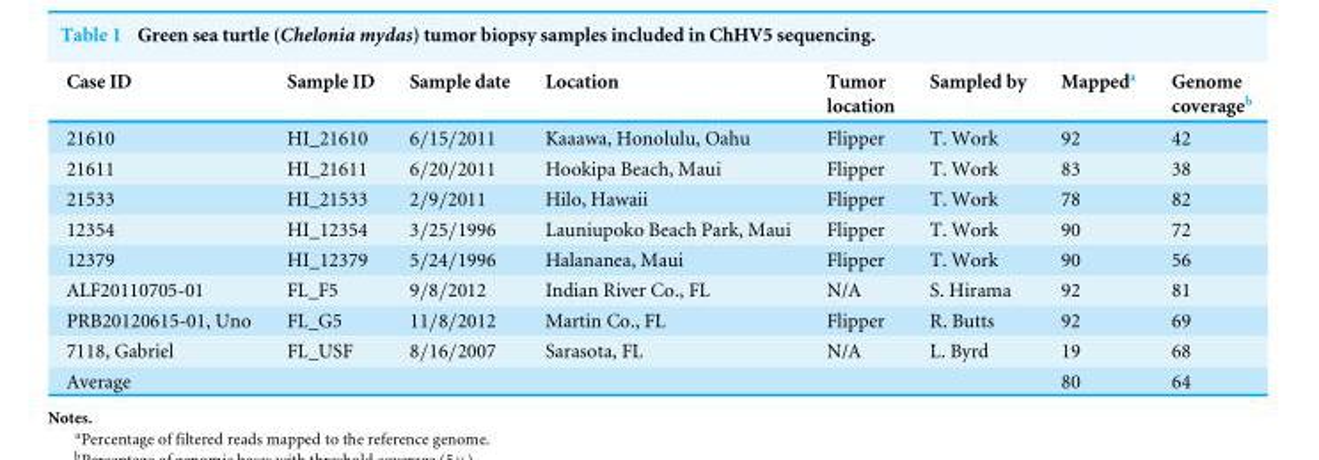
<table><thead><tr><td>Case ID</td><td>Sample ID</td><td>Sample date</td><td>Location</td><td>Tumor location</td><td>Sampled by</td><td>Mapped<sup>a</sup></td><td>Genome coverage<sup>b</sup></td></tr></thead><tbody><tr><td>21610</td><td>HI_21610</td><td>6/15/2011</td><td>Kaaawa, Honolulu, Oahu</td><td>Flipper</td><td>T. Work</td><td>92</td><td>42</td></tr><tr><td>21611</td><td>HI_21611</td><td>6/20/2011</td><td>Hookipa Beach, Maui</td><td>Flipper</td><td>T. Work</td><td>83</td><td>38</td></tr><tr><td>21533</td><td>HI_21533</td><td>2/9/2011</td><td>Hilo, Hawaii</td><td>Flipper</td><td>T. Work</td><td>78</td><td>82</td></tr><tr><td>12354</td><td>HI_12354</td><td>3/25/1996</td><td>Launiupoko Beach Park, Maui</td><td>Flipper</td><td>T. Work</td><td>90</td><td>72</td></tr><tr><td>12379</td><td>HI_12379</td><td>5/24/1996</td><td>Halananea, Maui</td><td>Flipper</td><td>T. Work</td><td>90</td><td>56</td></tr><tr><td>ALF20110705-01</td><td>FL_F5</td><td>9/8/2012</td><td>Indian River Co., FL</td><td>N/A</td><td>S. Hirama</td><td>92</td><td>81</td></tr><tr><td>PRB20120615-01, Uno</td><td>FL_G5</td><td>11/8/2012</td><td>Martin Co., FL</td><td>Flipper</td><td>R. Butts</td><td>92</td><td>69</td></tr><tr><td>7118, Gabriel</td><td>FL_USF</td><td>8/16/2007</td><td>Sarasota, FL</td><td>N/A</td><td>L. Byrd</td><td>19</td><td>68</td></tr><tr><td>Average</td><td></td><td></td><td></td><td></td><td></td><td>80</td><td>64</td></tr></tbody></table>